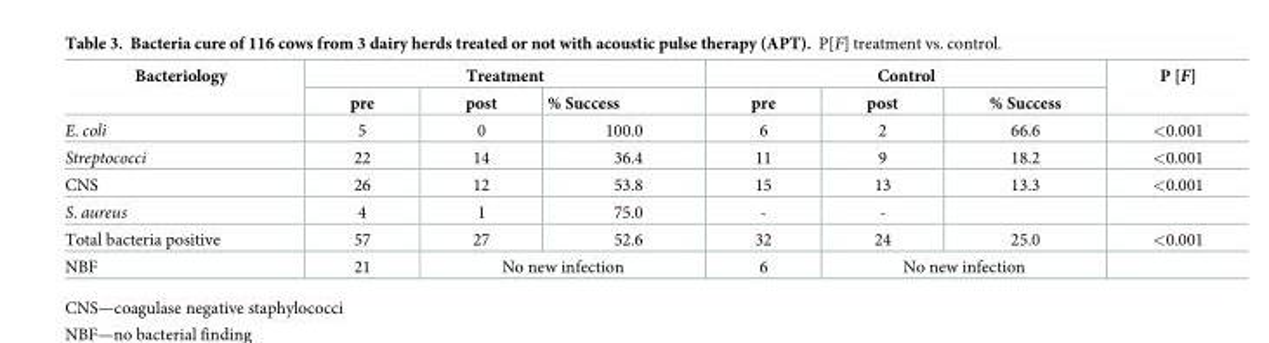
<table><thead><tr><td rowspan="2">Bacteriology</td><td colspan="3">Treatment</td><td colspan="3">Control</td><td rowspan="2">P [F]</td></tr><tr><td>pre</td><td>post</td><td>% Success</td><td>pre</td><td>post</td><td>% Success</td></tr></thead><tbody><tr><td>E. coli</td><td>5</td><td>0</td><td>100.0</td><td>6</td><td>2</td><td>66.6</td><td>&lt;0.001</td></tr><tr><td>Streptococci</td><td>22</td><td>14</td><td>36.4</td><td>11</td><td>9</td><td>18.2</td><td>&lt;0.001</td></tr><tr><td>CNS</td><td>26</td><td>12</td><td>53.8</td><td>15</td><td>13</td><td>13.3</td><td>&lt;0.001</td></tr><tr><td>S. aureus</td><td>4</td><td>1</td><td>75.0</td><td>-</td><td>-</td><td></td><td></td></tr><tr><td>Total bacteria positive</td><td>57</td><td>27</td><td>52.6</td><td>32</td><td>24</td><td>25.0</td><td>&lt;0.001</td></tr><tr><td>NBF</td><td>21</td><td colspan="2">No new infection</td><td>6</td><td colspan="2">No new infection</td><td></td></tr></tbody></table>